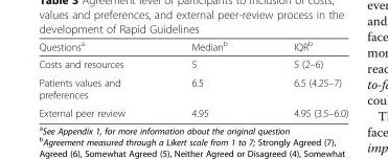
<table><thead><tr><td>Questions<sup>a</sup></td><td>Median<sup>b</sup></td><td>IQR<sup>b</sup></td></tr></thead><tbody><tr><td>Costs and resources</td><td>5</td><td>5 (2–6)</td></tr><tr><td>Patients values and preferences</td><td>6.5</td><td>6.5 (4.25–7)</td></tr><tr><td>External peer review</td><td>4.95</td><td>4.95 (3.5–6.0)</td></tr></tbody></table>